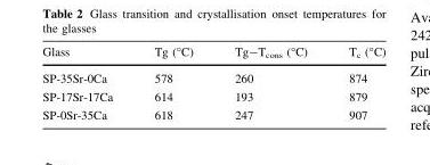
<table><thead><tr><td>Glass</td><td>Tg (°C)</td><td>Tg-T<sub>cons</sub> (°C)</td><td>T<sub>c</sub> (°C)</td></tr></thead><tbody><tr><td>SP-35Sr-0Ca</td><td>578</td><td>260</td><td>874</td></tr><tr><td>SP-17Sr-17Ca</td><td>614</td><td>193</td><td>879</td></tr><tr><td>SP-0Sr-35Ca</td><td>618</td><td>247</td><td>907</td></tr></tbody></table>